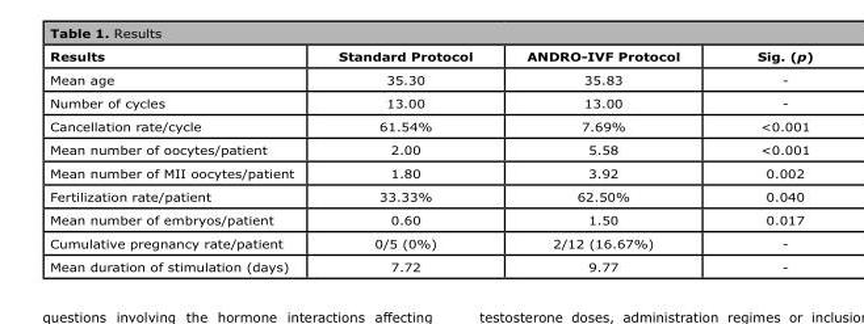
<table><thead><tr><td>Results</td><td>Standard Protocol</td><td>ANDRO-IVF Protocol</td><td>Sig. (p)</td></tr></thead><tbody><tr><td>Mean age</td><td>35.30</td><td>35.83</td><td>-</td></tr><tr><td>Number of cycles</td><td>13.00</td><td>13.00</td><td>-</td></tr><tr><td>Cancellation rate/cycle</td><td>61.54%</td><td>7.69%</td><td>&lt;0.001</td></tr><tr><td>Mean number of oocytes/patient</td><td>2.00</td><td>5.58</td><td>&lt;0.001</td></tr><tr><td>Mean number of MII oocytes/patient</td><td>1.80</td><td>3.92</td><td>0.002</td></tr><tr><td>Fertilization rate/patient</td><td>33.33%</td><td>62.50%</td><td>0.040</td></tr><tr><td>Mean number of embryos/patient</td><td>0.60</td><td>1.50</td><td>0.017</td></tr><tr><td>Cumulative pregnancy rate/patient</td><td>0/5 (0%)</td><td>2/12 (16.67%)</td><td>-</td></tr><tr><td>Mean duration of stimulation (days)</td><td>7.72</td><td>9.77</td><td>-</td></tr></tbody></table>